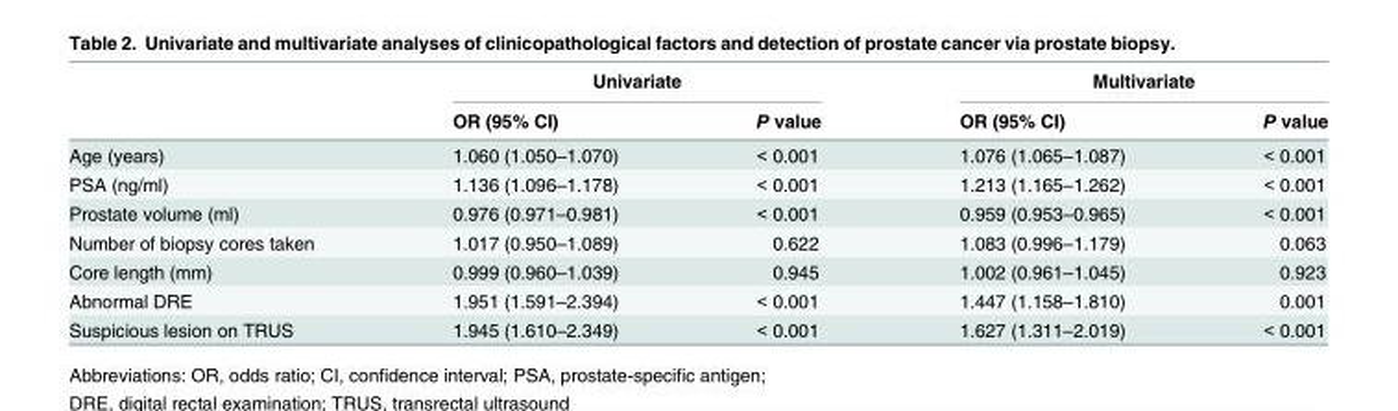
<table><thead><tr><td rowspan="2"></td><td colspan="2">Univariate</td><td colspan="2">Multivariate</td></tr><tr><td>OR (95% CI)</td><td>P value</td><td>OR (95% CI)</td><td>P value</td></tr></thead><tbody><tr><td>Age (years)</td><td>1.060 (1.050–1.070)</td><td>&lt; 0.001</td><td>1.076 (1.065–1.087)</td><td>&lt; 0.001</td></tr><tr><td>PSA (ng/ml)</td><td>1.136 (1.096–1.178)</td><td>&lt; 0.001</td><td>1.213 (1.165–1.262)</td><td>&lt; 0.001</td></tr><tr><td>Prostate volume (ml)</td><td>0.976 (0.971–0.981)</td><td>&lt; 0.001</td><td>0.959 (0.953–0.965)</td><td>&lt; 0.001</td></tr><tr><td>Number of biopsy cores taken</td><td>1.017 (0.950–1.089)</td><td>0.622</td><td>1.083 (0.996–1.179)</td><td>0.063</td></tr><tr><td>Core length (mm)</td><td>0.999 (0.960–1.039)</td><td>0.945</td><td>1.002 (0.961–1.045)</td><td>0.923</td></tr><tr><td>Abnormal DRE</td><td>1.951 (1.591–2.394)</td><td>&lt; 0.001</td><td>1.447 (1.158–1.810)</td><td>0.001</td></tr><tr><td>Suspicious lesion on TRUS</td><td>1.945 (1.610–2.349)</td><td>&lt; 0.001</td><td>1.627 (1.311–2.019)</td><td>&lt; 0.001</td></tr></tbody></table>